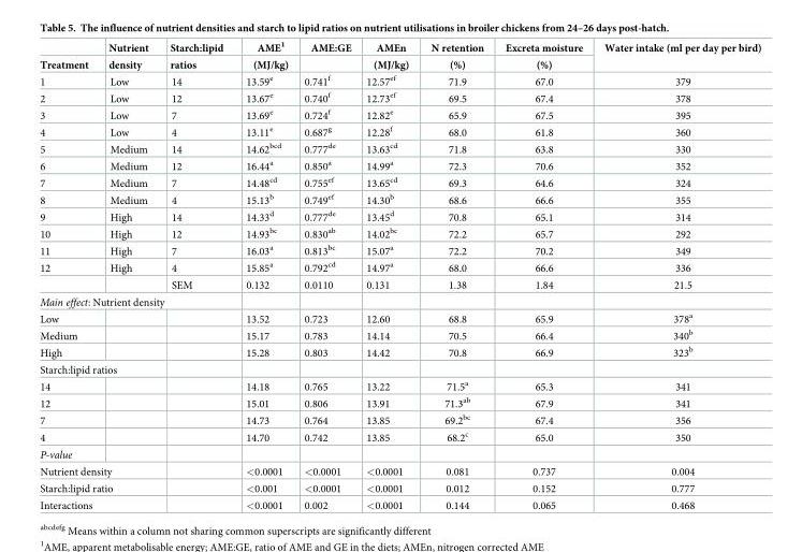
<table><thead><tr><td rowspan="2">Treatment</td><td rowspan="2">Nutrient density</td><td rowspan="2">Starch:lipid ratios</td><td rowspan="2">AME<sup>1</sup> (MJ/kg)</td><td rowspan="2">AME:GE</td><td rowspan="2">AMEn (MJ/kg)</td><td rowspan="2">N retention (%)</td><td rowspan="2">Excreta moisture (%)</td><td rowspan="2">Water intake (ml per day per bird)</td></tr><tr></tr></thead><tbody><tr><td>1</td><td>Low</td><td>14</td><td>13.59<sup>e</sup></td><td>0.741<sup>f</sup></td><td>12.57<sup>ef</sup></td><td>71.9</td><td>67.0</td><td>379</td></tr><tr><td>2</td><td>Low</td><td>12</td><td>13.67<sup>e</sup></td><td>0.740<sup>f</sup></td><td>12.73<sup>ef</sup></td><td>69.5</td><td>67.4</td><td>378</td></tr><tr><td>3</td><td>Low</td><td>7</td><td>13.69<sup>e</sup></td><td>0.724<sup>f</sup></td><td>12.82<sup>e</sup></td><td>65.9</td><td>67.5</td><td>395</td></tr><tr><td>4</td><td>Low</td><td>4</td><td>13.11<sup>e</sup></td><td>0.687<sup>g</sup></td><td>12.28<sup>f</sup></td><td>68.0</td><td>61.8</td><td>360</td></tr><tr><td>5</td><td>Medium</td><td>14</td><td>14.62<sup>bcd</sup></td><td>0.777<sup>de</sup></td><td>13.63<sup>cd</sup></td><td>71.8</td><td>63.8</td><td>330</td></tr><tr><td>6</td><td>Medium</td><td>12</td><td>16.44<sup>a</sup></td><td>0.850<sup>a</sup></td><td>14.99<sup>a</sup></td><td>72.3</td><td>70.6</td><td>352</td></tr><tr><td>7</td><td>Medium</td><td>7</td><td>14.48<sup>cd</sup></td><td>0.755<sup>ef</sup></td><td>13.65<sup>cd</sup></td><td>69.3</td><td>64.6</td><td>324</td></tr><tr><td>8</td><td>Medium</td><td>4</td><td>15.13<sup>b</sup></td><td>0.749<sup>ef</sup></td><td>14.30<sup>b</sup></td><td>68.6</td><td>66.6</td><td>355</td></tr><tr><td>9</td><td>High</td><td>14</td><td>14.33<sup>d</sup></td><td>0.777<sup>de</sup></td><td>13.45<sup>d</sup></td><td>70.8</td><td>65.1</td><td>314</td></tr><tr><td>10</td><td>High</td><td>12</td><td>14.93<sup>bc</sup></td><td>0.830<sup>ab</sup></td><td>14.02<sup>bc</sup></td><td>72.2</td><td>65.7</td><td>292</td></tr><tr><td>11</td><td>High</td><td>7</td><td>16.03<sup>a</sup></td><td>0.813<sup>bc</sup></td><td>15.07<sup>a</sup></td><td>72.2</td><td>70.2</td><td>349</td></tr><tr><td rowspan="2">12</td><td>High</td><td>4</td><td>15.85<sup>a</sup></td><td>0.792<sup>cd</sup></td><td>14.97<sup>a</sup></td><td>68.0</td><td>66.6</td><td>336</td></tr><tr><td></td><td>SEM</td><td>0.132</td><td>0.0110</td><td>0.131</td><td>1.38</td><td>1.84</td><td>21.5</td></tr><tr><td colspan="9">Main effect: Nutrient density</td></tr><tr><td>Low</td><td></td><td></td><td>13.52</td><td>0.723</td><td>12.60</td><td>68.8</td><td>65.9</td><td>378<sup>a</sup></td></tr><tr><td>Medium</td><td></td><td></td><td>15.17</td><td>0.783</td><td>14.14</td><td>70.5</td><td>66.4</td><td>340<sup>b</sup></td></tr><tr><td>High</td><td></td><td></td><td>15.28</td><td>0.803</td><td>14.42</td><td>70.8</td><td>66.9</td><td>323<sup>b</sup></td></tr><tr><td colspan="9">Starch:lipid ratios</td></tr><tr><td>14</td><td></td><td></td><td>14.18</td><td>0.765</td><td>13.22</td><td>71.5<sup>a</sup></td><td>65.3</td><td>341</td></tr><tr><td>12</td><td></td><td></td><td>15.01</td><td>0.806</td><td>13.91</td><td>71.3<sup>ab</sup></td><td>67.9</td><td>341</td></tr><tr><td>7</td><td></td><td></td><td>14.73</td><td>0.764</td><td>13.85</td><td>69.2<sup>bc</sup></td><td>67.4</td><td>356</td></tr><tr><td>4</td><td></td><td></td><td>14.70</td><td>0.742</td><td>13.85</td><td>68.2<sup>c</sup></td><td>65.0</td><td>350</td></tr><tr><td colspan="9">P-value</td></tr><tr><td colspan="2">Nutrient density</td><td></td><td>&lt;0.0001</td><td>&lt;0.0001</td><td>&lt;0.0001</td><td>0.081</td><td>0.737</td><td>0.004</td></tr><tr><td colspan="2">Starch:lipid ratio</td><td></td><td>&lt;0.001</td><td>&lt;0.0001</td><td>&lt;0.0001</td><td>0.012</td><td>0.152</td><td>0.777</td></tr><tr><td colspan="2">Interactions</td><td></td><td>&lt;0.0001</td><td>0.002</td><td>&lt;0.0001</td><td>0.144</td><td>0.065</td><td>0.468</td></tr></tbody></table>